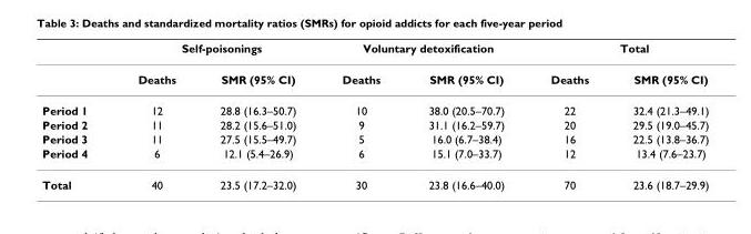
<table><thead><tr><td rowspan="2"></td><td colspan="2">Self-poisonings</td><td colspan="2">Voluntary detoxification</td><td colspan="2">Total</td></tr><tr><td>Deaths</td><td>SMR (95% CI)</td><td>Deaths</td><td>SMR (95% CI)</td><td>Deaths</td><td>SMR (95% CI)</td></tr></thead><tbody><tr><td>Period 1</td><td>12</td><td>28.8 (16.3–50.7)</td><td>10</td><td>38.0 (20.5–70.7)</td><td>22</td><td>32.4 (21.3–49.1)</td></tr><tr><td>Period 2</td><td>11</td><td>28.2 (15.6–51.0)</td><td>9</td><td>31.1 (16.2–59.7)</td><td>20</td><td>29.5 (19.0–45.7)</td></tr><tr><td>Period 3</td><td>11</td><td>27.5 (15.5–49.7)</td><td>5</td><td>16.0 (6.7–38.4)</td><td>16</td><td>22.5 (13.8–36.7)</td></tr><tr><td>Period 4</td><td>6</td><td>12.1 (5.4–26.9)</td><td>6</td><td>15.1 (7.0–33.7)</td><td>12</td><td>13.4 (7.6–23.7)</td></tr><tr><td>Total</td><td>40</td><td>23.5 (17.2–32.0)</td><td>30</td><td>23.8 (16.6–40.0)</td><td>70</td><td>23.6 (18.7–29.9)</td></tr></tbody></table>